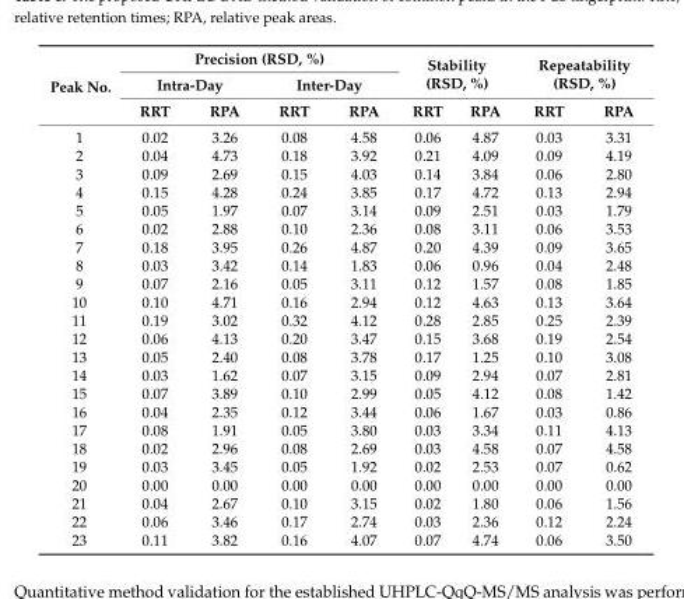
<table><thead><tr><td rowspan="3">Peak No.</td><td colspan="4">Precision (RSD, %)</td><td rowspan="2" colspan="2">Stability (RSD, %)</td><td rowspan="2" colspan="2">Repeatability (RSD, %)</td></tr><tr><td colspan="2">Intra-Day</td><td colspan="2">Inter-Day</td></tr><tr><td>RRT</td><td>RPA</td><td>RRT</td><td>RPA</td><td>RRT</td><td>RPA</td><td>RRT</td><td>RPA</td></tr></thead><tbody><tr><td>1</td><td>0.02</td><td>3.26</td><td>0.08</td><td>4.58</td><td>0.06</td><td>4.87</td><td>0.03</td><td>3.31</td></tr><tr><td>2</td><td>0.04</td><td>4.73</td><td>0.18</td><td>3.92</td><td>0.21</td><td>4.09</td><td>0.09</td><td>4.19</td></tr><tr><td>3</td><td>0.09</td><td>2.69</td><td>0.15</td><td>4.03</td><td>0.14</td><td>3.84</td><td>0.06</td><td>2.80</td></tr><tr><td>4</td><td>0.15</td><td>4.28</td><td>0.24</td><td>3.85</td><td>0.17</td><td>4.72</td><td>0.13</td><td>2.94</td></tr><tr><td>5</td><td>0.05</td><td>1.97</td><td>0.07</td><td>3.14</td><td>0.09</td><td>2.51</td><td>0.03</td><td>1.79</td></tr><tr><td>6</td><td>0.02</td><td>2.88</td><td>0.10</td><td>2.36</td><td>0.08</td><td>3.11</td><td>0.06</td><td>3.53</td></tr><tr><td>7</td><td>0.18</td><td>3.95</td><td>0.26</td><td>4.87</td><td>0.20</td><td>4.39</td><td>0.09</td><td>3.65</td></tr><tr><td>8</td><td>0.03</td><td>3.42</td><td>0.14</td><td>1.83</td><td>0.06</td><td>0.96</td><td>0.04</td><td>2.48</td></tr><tr><td>9</td><td>0.07</td><td>2.16</td><td>0.05</td><td>3.11</td><td>0.12</td><td>1.57</td><td>0.08</td><td>1.85</td></tr><tr><td>10</td><td>0.10</td><td>4.71</td><td>0.16</td><td>2.94</td><td>0.12</td><td>4.63</td><td>0.13</td><td>3.64</td></tr><tr><td>11</td><td>0.19</td><td>3.02</td><td>0.32</td><td>4.12</td><td>0.28</td><td>2.85</td><td>0.25</td><td>2.39</td></tr><tr><td>12</td><td>0.06</td><td>4.13</td><td>0.20</td><td>3.47</td><td>0.15</td><td>3.68</td><td>0.19</td><td>2.54</td></tr><tr><td>13</td><td>0.05</td><td>2.40</td><td>0.08</td><td>3.78</td><td>0.17</td><td>1.25</td><td>0.10</td><td>3.08</td></tr><tr><td>14</td><td>0.03</td><td>1.62</td><td>0.07</td><td>3.15</td><td>0.09</td><td>2.94</td><td>0.07</td><td>2.81</td></tr><tr><td>15</td><td>0.07</td><td>3.89</td><td>0.10</td><td>2.99</td><td>0.05</td><td>4.12</td><td>0.08</td><td>1.42</td></tr><tr><td>16</td><td>0.04</td><td>2.35</td><td>0.12</td><td>3.44</td><td>0.06</td><td>1.67</td><td>0.03</td><td>0.86</td></tr><tr><td>17</td><td>0.08</td><td>1.91</td><td>0.05</td><td>3.80</td><td>0.03</td><td>3.34</td><td>0.11</td><td>4.13</td></tr><tr><td>18</td><td>0.02</td><td>2.96</td><td>0.08</td><td>2.69</td><td>0.03</td><td>4.58</td><td>0.07</td><td>4.58</td></tr><tr><td>19</td><td>0.03</td><td>3.45</td><td>0.05</td><td>1.92</td><td>0.02</td><td>2.53</td><td>0.07</td><td>0.62</td></tr><tr><td>20</td><td>0.00</td><td>0.00</td><td>0.00</td><td>0.00</td><td>0.00</td><td>0.00</td><td>0.00</td><td>0.00</td></tr><tr><td>21</td><td>0.04</td><td>2.67</td><td>0.10</td><td>3.15</td><td>0.02</td><td>1.80</td><td>0.06</td><td>1.56</td></tr><tr><td>22</td><td>0.06</td><td>3.46</td><td>0.17</td><td>2.74</td><td>0.03</td><td>2.36</td><td>0.12</td><td>2.24</td></tr><tr><td>23</td><td>0.11</td><td>3.82</td><td>0.16</td><td>4.07</td><td>0.07</td><td>4.74</td><td>0.06</td><td>3.50</td></tr></tbody></table>